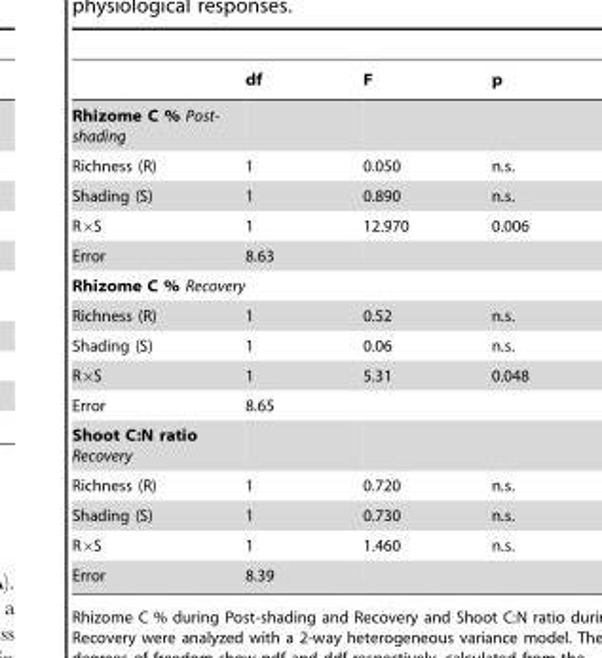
<table><thead><tr><td></td><td>df</td><td>F</td><td>p</td></tr></thead><tbody><tr><td colspan="4">Rhizome C % Post- shading</td></tr><tr><td>Richness (R)</td><td>1</td><td>0.050</td><td>n.s.</td></tr><tr><td>Shading (S)</td><td>1</td><td>0.890</td><td>n.s.</td></tr><tr><td>R×S</td><td>1</td><td>12.970</td><td>0.006</td></tr><tr><td>Error</td><td>8.63</td><td></td><td></td></tr><tr><td colspan="4">Rhizome C % Recovery</td></tr><tr><td>Richness (R)</td><td>1</td><td>0.52</td><td>n.s.</td></tr><tr><td>Shading (S)</td><td>1</td><td>0.06</td><td>n.s.</td></tr><tr><td>R×S</td><td>1</td><td>5.31</td><td>0.048</td></tr><tr><td>Error</td><td>8.65</td><td></td><td></td></tr><tr><td colspan="4">Shoot C:N ratio Recovery</td></tr><tr><td>Richness (R)</td><td>1</td><td>0.720</td><td>n.s.</td></tr><tr><td>Shading (S)</td><td>1</td><td>0.730</td><td>n.s.</td></tr><tr><td>R×S</td><td>1</td><td>1.460</td><td>n.s.</td></tr><tr><td>Error</td><td>8.39</td><td></td><td></td></tr></tbody></table>